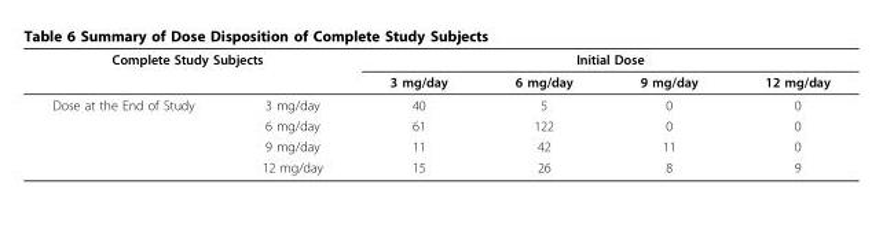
<table><thead><tr><td colspan="2">Complete Study Subjects</td><td colspan="4">Initial Dose</td></tr><tr><td></td><td></td><td>3 mg/day</td><td>6 mg/day</td><td>9 mg/day</td><td>12 mg/day</td></tr></thead><tbody><tr><td rowspan="4">Dose at the End of Study</td><td>3 mg/day</td><td>40</td><td>5</td><td>0</td><td>0</td></tr><tr><td>6 mg/day</td><td>61</td><td>122</td><td>0</td><td>0</td></tr><tr><td>9 mg/day</td><td>11</td><td>42</td><td>11</td><td>0</td></tr><tr><td>12 mg/day</td><td>15</td><td>26</td><td>8</td><td>9</td></tr></tbody></table>